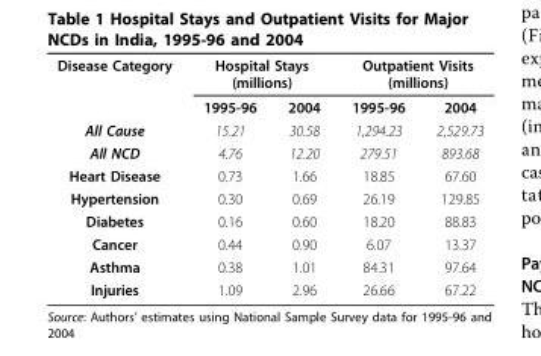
<table><tbody><tr><td rowspan="2">Disease Category</td><td colspan="2">Hospital Stays (millions)</td><td colspan="2">Outpatient Visits (millions)</td></tr><tr><td>1995-96</td><td>2004</td><td>1995-96</td><td>2004</td></tr><tr><td>All Cause</td><td>15.21</td><td>30.58</td><td>1,294.23</td><td>2,529.73</td></tr><tr><td>All NCD</td><td>4.76</td><td>12.20</td><td>279.51</td><td>893.68</td></tr><tr><td>Heart Disease</td><td>0.73</td><td>1.66</td><td>18.85</td><td>67.60</td></tr><tr><td>Hypertension</td><td>0.30</td><td>0.69</td><td>26.19</td><td>129.85</td></tr><tr><td>Diabetes</td><td>0.16</td><td>0.60</td><td>18.20</td><td>88.83</td></tr><tr><td>Cancer</td><td>0.44</td><td>0.90</td><td>6.07</td><td>13.37</td></tr><tr><td>Asthma</td><td>0.38</td><td>1.01</td><td>84.31</td><td>97.64</td></tr><tr><td>Injuries</td><td>1.09</td><td>2.96</td><td>26.66</td><td>67.22</td></tr></tbody></table>